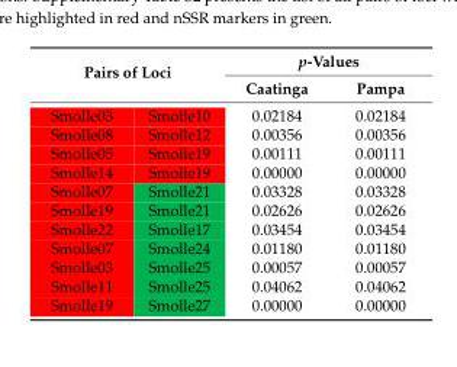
<table><thead><tr><td rowspan="2" colspan="2">Pairs of Loci</td><td colspan="2">p-Values</td></tr><tr><td rowspan="2">Caatinga 0.02184</td><td rowspan="2">Pampa 0.02184</td></tr><tr><td>Smolle03</td><td>Smolle10</td></tr></thead><tbody><tr><td>Smolle08</td><td>Smolle12</td><td>0.00356</td><td>0.00356</td></tr><tr><td>Smolle05</td><td>Smolle19</td><td>0.00111</td><td>0.00111</td></tr><tr><td>Smolle14</td><td>Smolle19</td><td>0.00000</td><td>0.00000</td></tr><tr><td>Smolle07</td><td>Smolle21</td><td>0.03328</td><td>0.03328</td></tr><tr><td>Smolle19</td><td>Smolle21</td><td>0.02626</td><td>0.02626</td></tr><tr><td>Smolle22</td><td>Smolle17</td><td>0.03454</td><td>0.03454</td></tr><tr><td>Smolle07</td><td>Smolle24</td><td>0.01180</td><td>0.01180</td></tr><tr><td>Smolle03</td><td>Smolle25</td><td>0.00057</td><td>0.00057</td></tr><tr><td>Smolle11</td><td>Smolle25</td><td>0.04062</td><td>0.04062</td></tr><tr><td>Smolle19</td><td>Smolle27</td><td>0.00000</td><td>0.00000</td></tr></tbody></table>